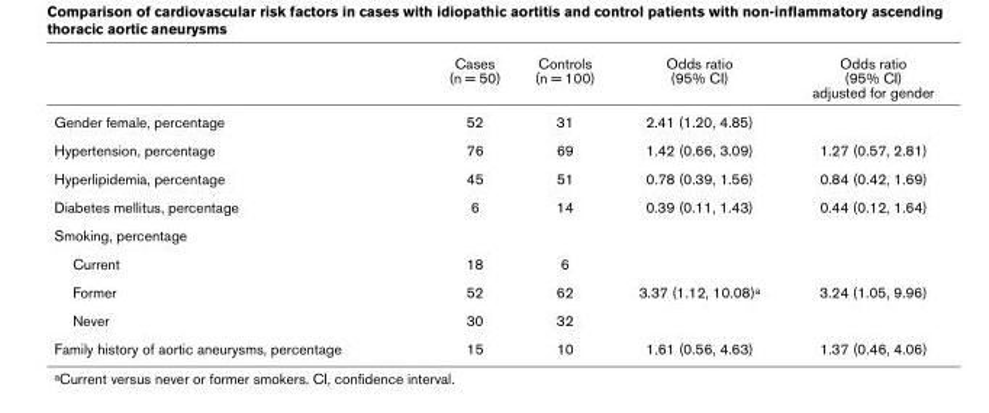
<table><thead><tr><td></td><td>Cases (n = 50)</td><td>Controls (n = 100)</td><td>Odds ratio (95% CI)</td><td>Odds ratio (95% CI) adjusted for gender</td></tr></thead><tbody><tr><td>Gender female, percentage</td><td>52</td><td>31</td><td>2.41 (1.20, 4.85)</td><td></td></tr><tr><td>Hypertension, percentage</td><td>76</td><td>69</td><td>1.42 (0.66, 3.09)</td><td>1.27 (0.57, 2.81)</td></tr><tr><td>Hyperlipidemia, percentage</td><td>45</td><td>51</td><td>0.78 (0.39, 1.56)</td><td>0.84 (0.42, 1.69)</td></tr><tr><td>Diabetes mellitus, percentage</td><td>6</td><td>14</td><td>0.39 (0.11, 1.43)</td><td>0.44 (0.12, 1.64)</td></tr><tr><td colspan="5">Smoking, percentage</td></tr><tr><td>Current</td><td>18</td><td>6</td><td></td><td></td></tr><tr><td>Former</td><td>52</td><td>62</td><td>3.37 (1.12, 10.08)<sup>a</sup></td><td>3.24 (1.05, 9.96)</td></tr><tr><td>Never</td><td>30</td><td>32</td><td></td><td></td></tr><tr><td>Family history of aortic aneurysms, percentage</td><td>15</td><td>10</td><td>1.61 (0.56, 4.63)</td><td>1.37 (0.46, 4.06)</td></tr></tbody></table>